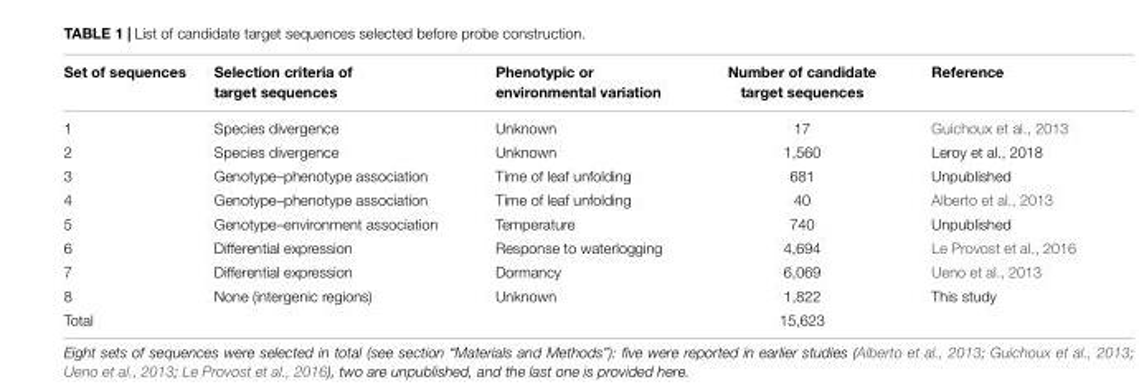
<table><thead><tr><td>Set of sequences</td><td>Selection criteria of target sequences</td><td>Phenotypic or environmental variation</td><td>Number of candidate target sequences</td><td>Reference</td></tr></thead><tbody><tr><td>1</td><td>Species divergence</td><td>Unknown</td><td>17</td><td>Guichoux et al., 2013</td></tr><tr><td>2</td><td>Species divergence</td><td>Unknown</td><td>1,560</td><td>Leroy et al., 2018</td></tr><tr><td>3</td><td>Genotype–phenotype association</td><td>Time of leaf unfolding</td><td>681</td><td>Unpublished</td></tr><tr><td>4</td><td>Genotype–phenotype association</td><td>Time of leaf unfolding</td><td>40</td><td>Alberto et al., 2013</td></tr><tr><td>5</td><td>Genotype–environment association</td><td>Temperature</td><td>740</td><td>Unpublished</td></tr><tr><td>6</td><td>Differential expression</td><td>Response to waterlogging</td><td>4,694</td><td>Le Provost et al., 2016</td></tr><tr><td>7</td><td>Differential expression</td><td>Dormancy</td><td>6,069</td><td>Ueno et al., 2013</td></tr><tr><td>8</td><td>None (intergenic regions)</td><td>Unknown</td><td>1,822</td><td>This study</td></tr><tr><td>Total</td><td></td><td></td><td>15,623</td><td></td></tr></tbody></table>